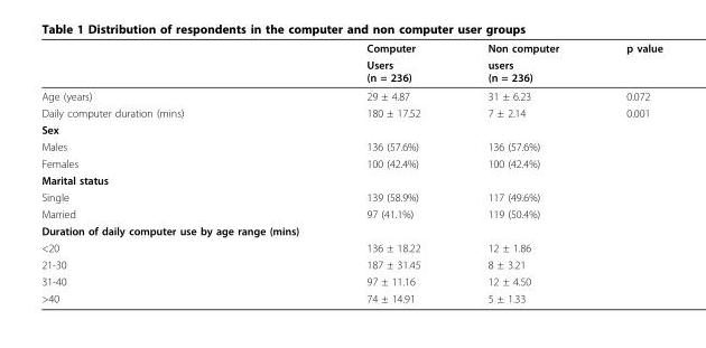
<table><thead><tr><td rowspan="2"></td><td rowspan="2">Computer Users (n = 236)</td><td rowspan="2">Non computer users (n = 236)</td><td rowspan="2">p value</td></tr><tr></tr></thead><tbody><tr><td>Age (years)</td><td>29 ± 4.87</td><td>31 ± 6.23</td><td>0.072</td></tr><tr><td>Daily computer duration (mins)</td><td>180 ± 17.52</td><td>7 ± 2.14</td><td>0.001</td></tr><tr><td colspan="4">Sex</td></tr><tr><td>Males</td><td>136 (57.6%)</td><td>136 (57.6%)</td><td></td></tr><tr><td>Females</td><td>100 (42.4%)</td><td>100 (42.4%)</td><td></td></tr><tr><td colspan="4">Marital status</td></tr><tr><td>Single</td><td>139 (58.9%)</td><td>117 (49.6%)</td><td></td></tr><tr><td>Married</td><td>97 (41.1%)</td><td>119 (50.4%)</td><td></td></tr><tr><td colspan="4">Duration of daily computer use by age range (mins)</td></tr><tr><td>&lt;20</td><td>136 ± 18.22</td><td>12 ± 1.86</td><td></td></tr><tr><td>21-30</td><td>187 ± 31.45</td><td>8 ± 3.21</td><td></td></tr><tr><td>31-40</td><td>97 ± 11.16</td><td>12 ± 4.50</td><td></td></tr><tr><td>&gt;40</td><td>74 ± 14.91</td><td>5 ± 1.33</td><td></td></tr></tbody></table>